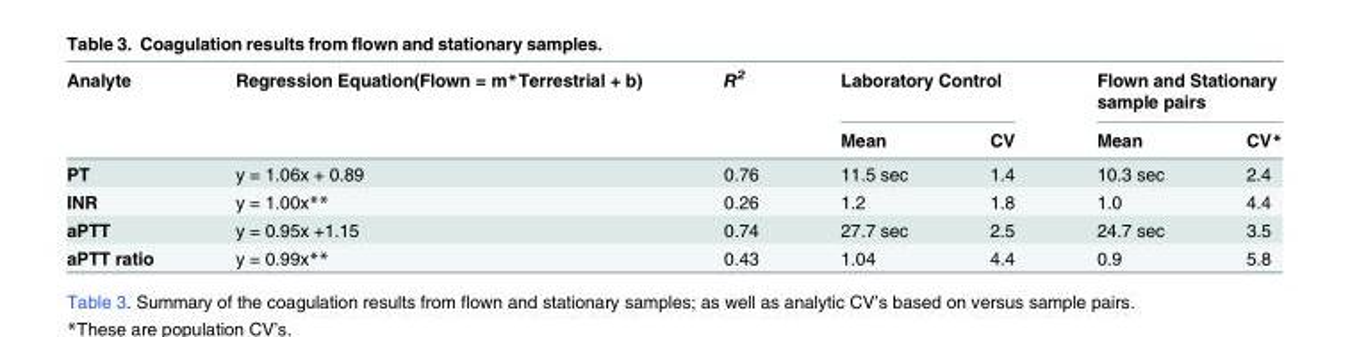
<table><thead><tr><td rowspan="2">Analyte</td><td rowspan="2">Regression Equation(Flown = m*Terrestrial + b)</td><td rowspan="2">R<sup>2</sup></td><td colspan="2">Laboratory Control</td><td colspan="2">Flown and Stationary sample pairs</td></tr><tr><td>Mean</td><td>CV</td><td>Mean</td><td>CV*</td></tr></thead><tbody><tr><td>PT</td><td>y = 1.06x + 0.89</td><td>0.76</td><td>11.5 sec</td><td>1.4</td><td>10.3 sec</td><td>2.4</td></tr><tr><td>INR</td><td>y = 1.00x**</td><td>0.26</td><td>1.2</td><td>1.8</td><td>1.0</td><td>4.4</td></tr><tr><td>aPTT</td><td>y = 0.95x +1.15</td><td>0.74</td><td>27.7 sec</td><td>2.5</td><td>24.7 sec</td><td>3.5</td></tr><tr><td>aPTT ratio</td><td>y = 0.99x**</td><td>0.43</td><td>1.04</td><td>4.4</td><td>0.9</td><td>5.8</td></tr></tbody></table>